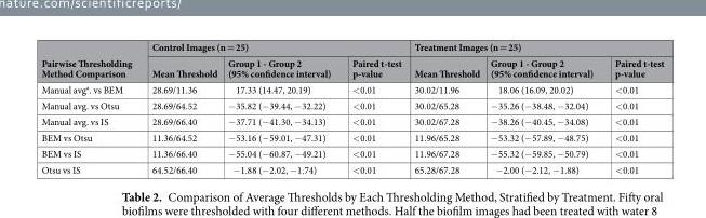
<table><thead><tr><td rowspan="2">Pairwise Thresholding Method Comparison</td><td colspan="3">Control Images (n = 25)</td><td colspan="3">Treatment Images (n = 25)</td></tr><tr><td>Mean Threshold</td><td>Group 1 - Group 2 (95% confidence interval)</td><td>Paired t-test p-value</td><td>Mean Threshold</td><td>Group 1 - Group 2 (95% confidence interval)</td><td>Paired t-test p-value</td></tr></thead><tbody><tr><td>Manual avg<sup>a</sup>. vs BEM</td><td>28.69/11.36</td><td>17.33 (14.47, 20.19)</td><td>&lt;0.01</td><td>30.02/11.96</td><td>18.06 (16.09, 20.02)</td><td>&lt;0.01</td></tr><tr><td>Manual avg. vs Otsu</td><td>28.69/64.52</td><td>−35.82 (−39.44, −32.22)</td><td>&lt;0.01</td><td>30.02/65.28</td><td>−35.26 (−38.48, −32.04)</td><td>&lt;0.01</td></tr><tr><td>Manual avg. vs IS</td><td>28.69/66.40</td><td>−37.71 (−41.30, −34.13)</td><td>&lt;0.01</td><td>30.02/67.28</td><td>−38.26 (−40.45, −34.08)</td><td>&lt;0.01</td></tr><tr><td>BEM vs Otsu</td><td>11.36/64.52</td><td>−53.16 (−59.01, −47.31)</td><td>&lt;0.01</td><td>11.96/65.28</td><td>−53.32 (−57.89, −48.75)</td><td>&lt;0.01</td></tr><tr><td>BEM vs IS</td><td>11.36/66.40</td><td>−55.04 (−60.87, −49.21)</td><td>&lt;0.01</td><td>11.96/67.28</td><td>−55.32 (−59.85, −50.79)</td><td>&lt;0.01</td></tr><tr><td>Otsu vs IS</td><td>64.52/66.40</td><td>−1.88 (−2.02, −1.74)</td><td>&lt;0.01</td><td>65.28/67.28</td><td>−2.00 (−2.12, −1.88)</td><td>&lt;0.01</td></tr></tbody></table>